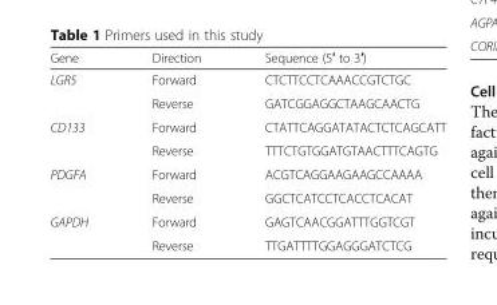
<table><thead><tr><td>Gene</td><td>Direction</td><td>Sequence (5′ to 3′)</td></tr></thead><tbody><tr><td rowspan="2">LGR5</td><td>Forward</td><td>CTCTTCCTCAAACCGTCTGC</td></tr><tr><td>Reverse</td><td>GATCGGAGGCTAAGCAACTG</td></tr><tr><td rowspan="2">CD133</td><td>Forward</td><td>CTATTCAGGATATACTCTCAGCATT</td></tr><tr><td>Reverse</td><td>TTTCTGTGGATGTAACTTTCAGTG</td></tr><tr><td rowspan="2">PDGFA</td><td>Forward</td><td>ACGTCAGGAAGAAGCCAAAA</td></tr><tr><td>Reverse</td><td>GGCTCATCCTCACCTCACAT</td></tr><tr><td rowspan="2">GAPDH</td><td>Forward</td><td>GAGTCAACGGATTTGGTCGT</td></tr><tr><td>Reverse</td><td>TTGATTTTGGAGGGATCTCG</td></tr></tbody></table>